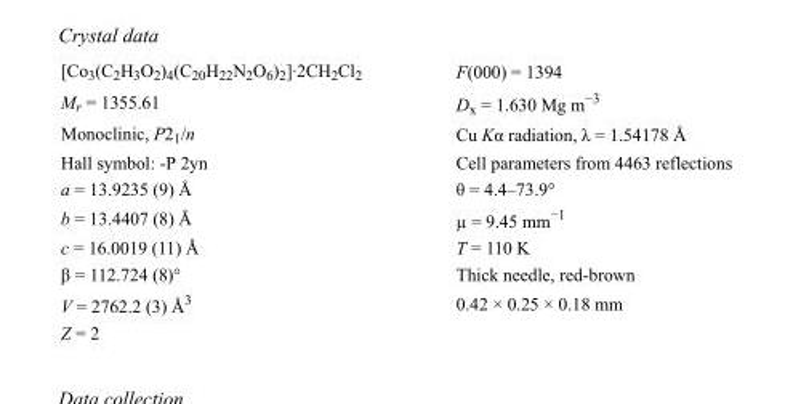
<table><tbody><tr><td>[Co<sub>3</sub>(C<sub>2</sub>H<sub>3</sub>O<sub>2</sub>)<sub>4</sub>(C<sub>20</sub>H<sub>22</sub>N<sub>2</sub>O<sub>6</sub>)<sub>2</sub>]·2CH<sub>2</sub>Cl<sub>2</sub></td><td>F(000) = 1394</td></tr><tr><td>M<sub>r</sub> = 1355.61</td><td>D<sub>x</sub> = 1.630 Mg m<sup>−3</sup></td></tr><tr><td>Monoclinic, P2<sub>1</sub>/n</td><td>Cu Kα radiation, λ = 1.54178 Å</td></tr><tr><td>Hall symbol: -P 2yn</td><td>Cell parameters from 4463 reflections</td></tr><tr><td>a = 13.9235 (9) Å</td><td>θ = 4.4–73.9°</td></tr><tr><td>b = 13.4407 (8) Å</td><td>µ = 9.45 mm<sup>−1</sup></td></tr><tr><td>c = 16.0019 (11) Å</td><td>T = 110 K</td></tr><tr><td>β = 112.724 (8)°</td><td>Thick needle, red-brown</td></tr><tr><td>V = 2762.2 (3) Å<sup>3</sup></td><td>0.42 × 0.25 × 0.18 mm</td></tr><tr><td>Z = 2</td><td></td></tr></tbody></table>